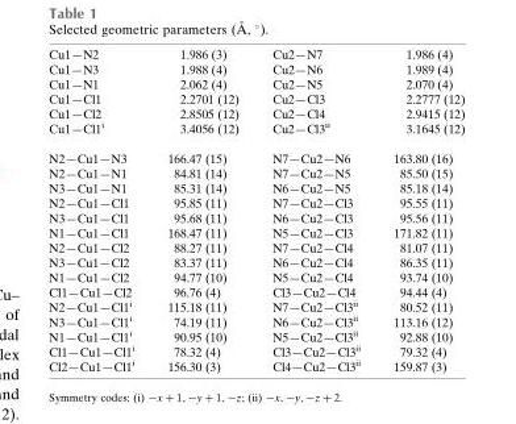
<table><tbody><tr><td>Cu1—N2</td><td>1.986 (3)</td><td>Cu2—N7</td><td>1.986 (4)</td></tr><tr><td>Cu1—N3</td><td>1.988 (4)</td><td>Cu2—N6</td><td>1.989 (4)</td></tr><tr><td>Cu1—N1</td><td>2.062 (4)</td><td>Cu2—N5</td><td>2.070 (4)</td></tr><tr><td>Cu1—Cl1</td><td>2.2701 (12)</td><td>Cu2—Cl3</td><td>2.2777 (12)</td></tr><tr><td>Cu1—Cl2</td><td>2.8505 (12)</td><td>Cu2—Cl4</td><td>2.9415 (12)</td></tr><tr><td>Cu1—Cl1<sup>i</sup></td><td>3.4056 (12)</td><td>Cu2—Cl3<sup>ii</sup></td><td>3.1645 (12)</td></tr><tr><td>N2—Cu1—N3</td><td>166.47 (15)</td><td>N7—Cu2—N6</td><td>163.80 (16)</td></tr><tr><td>N2—Cu1—N1</td><td>84.81 (14)</td><td>N7—Cu2—N5</td><td>85.50 (15)</td></tr><tr><td>N3—Cu1—N1</td><td>85.31 (14)</td><td>N6—Cu2—N5</td><td>85.18 (14)</td></tr><tr><td>N2—Cu1—Cl1</td><td>95.85 (11)</td><td>N7—Cu2—Cl3</td><td>95.55 (11)</td></tr><tr><td>N3—Cu1—Cl1</td><td>95.68 (11)</td><td>N6—Cu2—Cl3</td><td>95.56 (11)</td></tr><tr><td>N1—Cu1—Cl1</td><td>168.47 (11)</td><td>N5—Cu2—Cl3</td><td>171.82 (11)</td></tr><tr><td>N2—Cu1—Cl2</td><td>88.27 (11)</td><td>N7—Cu2—Cl4</td><td>81.07 (11)</td></tr><tr><td>N3—Cu1—Cl2</td><td>83.37 (11)</td><td>N6—Cu2—Cl4</td><td>86.35 (11)</td></tr><tr><td>N1—Cu1—Cl2</td><td>94.77 (10)</td><td>N5—Cu2—Cl4</td><td>93.74 (10)</td></tr><tr><td>Cl1—Cu1—Cl2</td><td>96.76 (4)</td><td>Cl3—Cu2—Cl4</td><td>94.44 (4)</td></tr><tr><td>N2—Cu1—Cl1<sup>i</sup></td><td>115.18 (11)</td><td>N7—Cu2—Cl3<sup>ii</sup></td><td>80.52 (11)</td></tr><tr><td>N3—Cu1—Cl1<sup>i</sup></td><td>74.19 (11)</td><td>N6—Cu2—Cl3<sup>ii</sup></td><td>113.16 (12)</td></tr><tr><td>N1—Cu1—Cl1<sup>i</sup></td><td>90.95 (10)</td><td>N5—Cu2—Cl3<sup>ii</sup></td><td>92.88 (10)</td></tr><tr><td>Cl1—Cu1—Cl1<sup>i</sup></td><td>78.32 (4)</td><td>Cl3—Cu2—Cl3<sup>ii</sup></td><td>79.32 (4)</td></tr><tr><td>Cl2—Cu1—Cl1<sup>i</sup></td><td>156.30 (3)</td><td>Cl4—Cu2—Cl3<sup>ii</sup></td><td>159.87 (3)</td></tr></tbody></table>